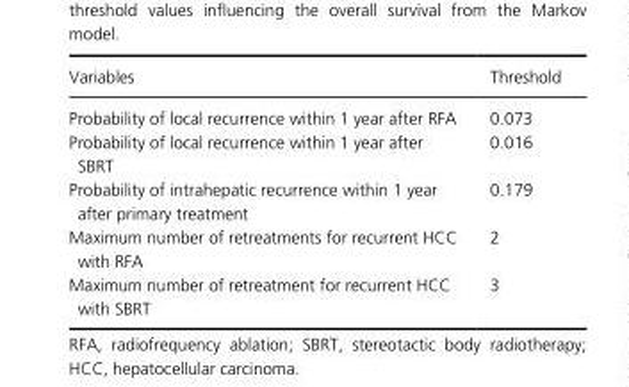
<table><thead><tr><td>Variables</td><td>Threshold</td></tr></thead><tbody><tr><td>Probability of local recurrence within 1 year after RFA</td><td>0.073</td></tr><tr><td>Probability of local recurrence within 1 year after SBRT</td><td>0.016</td></tr><tr><td>Probability of intrahepatic recurrence within 1 year after primary treatment</td><td>0.179</td></tr><tr><td>Maximum number of retreatments for recurrent HCC with RFA</td><td>2</td></tr><tr><td>Maximum number of retreatment for recurrent HCC with SBRT</td><td>3</td></tr></tbody></table>